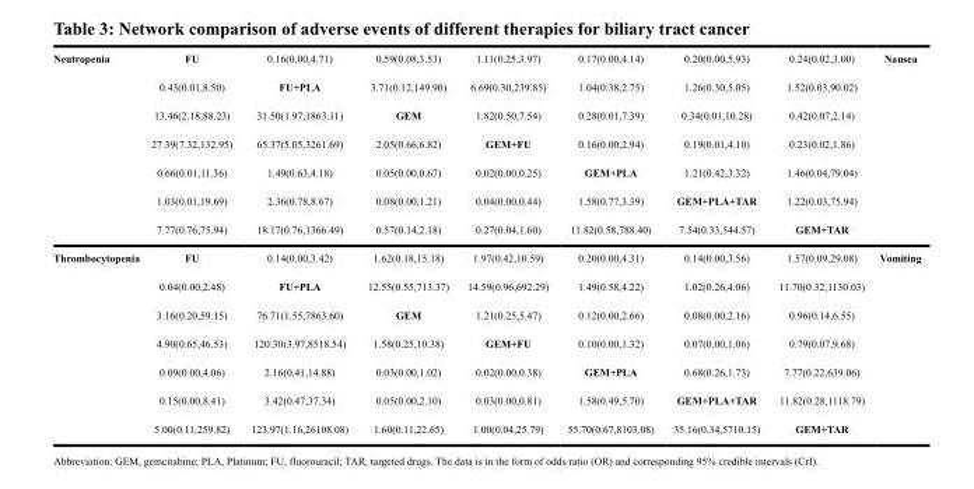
<table><tbody><tr><td rowspan="7">Neutropenia</td><td>FU</td><td>0.16(0.00,4.71)</td><td>0.59(0.08,3.53)</td><td>1.11(0.25,3.97)</td><td>0.17(0.00,4.14)</td><td>0.20(0.00,5.93)</td><td>0.24(0.02,3.00)</td><td rowspan="7">Nausea</td></tr><tr><td>0.43(0.01,8.50)</td><td>FU+PLA</td><td>3.71(0.12,149.90)</td><td>6.69(0.30,239.85)</td><td>1.04(0.38,2.75)</td><td>1.26(0.30,5.05)</td><td>1.52(0.03,90.02)</td></tr><tr><td>13.46(2.18,88.23)</td><td>31.50(1.97,1863.11)</td><td>GEM</td><td>1.82(0.50,7.54)</td><td>0.28(0.01,7.39)</td><td>0.34(0.01,10.28)</td><td>0.42(0.07,2.14)</td></tr><tr><td>27.39(7.32,132.95)</td><td>65.37(5.05,3261.69)</td><td>2.05(0.66,6.82)</td><td>GEM+FU</td><td>0.16(0.00,2.94)</td><td>0.19(0.01,4.10)</td><td>0.23(0.02,1.86)</td></tr><tr><td>0.66(0.01,11.36)</td><td>1.49(0.63,4.18)</td><td>0.05(0.00,0.67)</td><td>0.02(0.00,0.25)</td><td>GEM+PLA</td><td>1.21(0.42,3.32)</td><td>1.46(0.04,79.04)</td></tr><tr><td>1.03(0.01,19.69)</td><td>2.36(0.78,8.67)</td><td>0.08(0.00,1.21)</td><td>0.04(0.00,0.44)</td><td>1.58(0.77,3.39)</td><td>GEM+PLA+TAR</td><td>1.22(0.03,75.94)</td></tr><tr><td>7.77(0.76,75.94)</td><td>18.17(0.76,1366.49)</td><td>0.57(0.14,2.18)</td><td>0.27(0.04,1.60)</td><td>11.82(0.58,788.40)</td><td>7.54(0.33,544.57)</td><td>GEM+TAR</td></tr><tr><td rowspan="7">Thrombocytopenia</td><td>FU</td><td>0.14(0.00,3.42)</td><td>1.62(0.18,15.18)</td><td>1.97(0.42,10.59)</td><td>0.20(0.00,4.31)</td><td>0.14(0.00,3.56)</td><td>1.57(0.09,29.08)</td><td rowspan="7">Vomiting</td></tr><tr><td>0.04(0.00,2.48)</td><td>FU+PLA</td><td>12.55(0.55,713.37)</td><td>14.59(0.96,692.29)</td><td>1.49(0.58,4.22)</td><td>1.02(0.26,4.06)</td><td>11.70(0.32,1130.03)</td></tr><tr><td>3.16(0.20,59.15)</td><td>76.71(1.55,7863.60)</td><td>GEM</td><td>1.21(0.25,5.47)</td><td>0.12(0.00,2.66)</td><td>0.08(0.00,2.16)</td><td>0.96(0.14,6.55)</td></tr><tr><td>4.90(0.65,46.53)</td><td>120.30(3.97,8518.54)</td><td>1.58(0.25,10.38)</td><td>GEM+FU</td><td>0.10(0.00,1.32)</td><td>0.07(0.00,1.06)</td><td>0.79(0.07,9.68)</td></tr><tr><td>0.09(0.00,4.06)</td><td>2.16(0.41,14.88)</td><td>0.03(0.00,1.02)</td><td>0.02(0.00,0.38)</td><td>GEM+PLA</td><td>0.68(0.26,1.73)</td><td>7.77(0.22,639.06)</td></tr><tr><td>0.15(0.00,8.41)</td><td>3.42(0.47,37.34)</td><td>0.05(0.00,2.10)</td><td>0.03(0.00,0.81)</td><td>1.58(0.49,5.70)</td><td>GEM+PLA+TAR</td><td>11.82(0.28,1118.79)</td></tr><tr><td>5.00(0.11,259.82)</td><td>123.97(1.16,26108.08)</td><td>1.60(0.11,22.65)</td><td>1.00(0.04,25.79)</td><td>55.70(0.67,8103.08)</td><td>35.16(0.34,5710.15)</td><td>GEM+TAR</td></tr></tbody></table>